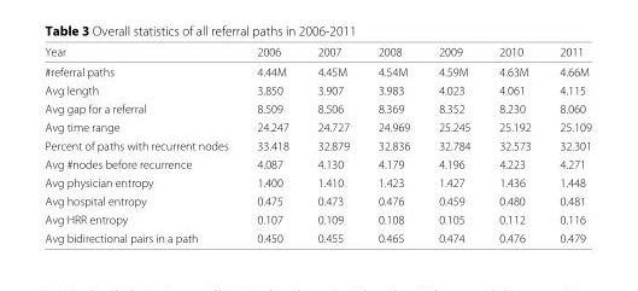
<table><thead><tr><td>Year</td><td>2006</td><td>2007</td><td>2008</td><td>2009</td><td>2010</td><td>2011</td></tr></thead><tbody><tr><td>#referral paths</td><td>4.44M</td><td>4.45M</td><td>4.54M</td><td>4.59M</td><td>4.63M</td><td>4.66M</td></tr><tr><td>Avg length</td><td>3.850</td><td>3.907</td><td>3.983</td><td>4.023</td><td>4.061</td><td>4.115</td></tr><tr><td>Avg gap for a referral</td><td>8.509</td><td>8.506</td><td>8.369</td><td>8.352</td><td>8.230</td><td>8.060</td></tr><tr><td>Avg time range</td><td>24.247</td><td>24.727</td><td>24.969</td><td>25.245</td><td>25.192</td><td>25.109</td></tr><tr><td>Percent of paths with recurrent nodes</td><td>33.418</td><td>32.879</td><td>32.836</td><td>32.784</td><td>32.573</td><td>32.301</td></tr><tr><td>Avg #nodes before recurrence</td><td>4.087</td><td>4.130</td><td>4.179</td><td>4.196</td><td>4.223</td><td>4.271</td></tr><tr><td>Avg physician entropy</td><td>1.400</td><td>1.410</td><td>1.423</td><td>1.427</td><td>1.436</td><td>1.448</td></tr><tr><td>Avg hospital entropy</td><td>0.475</td><td>0.473</td><td>0.476</td><td>0.459</td><td>0.480</td><td>0.481</td></tr><tr><td>Avg HRR entropy</td><td>0.107</td><td>0.109</td><td>0.108</td><td>0.105</td><td>0.112</td><td>0.116</td></tr><tr><td>Avg bidirectional pairs in a path</td><td>0.450</td><td>0.455</td><td>0.465</td><td>0.474</td><td>0.476</td><td>0.479</td></tr></tbody></table>